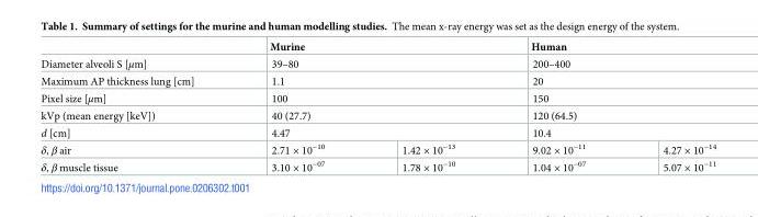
<table><thead><tr><td></td><td colspan="2">Murine</td><td colspan="2">Human</td></tr></thead><tbody><tr><td>Diameter alveoli S [μm]</td><td colspan="2">39–80</td><td colspan="2">200–400</td></tr><tr><td>Maximum AP thickness lung [cm]</td><td colspan="2">1.1</td><td colspan="2">20</td></tr><tr><td>Pixel size [μm]</td><td colspan="2">100</td><td colspan="2">150</td></tr><tr><td>kVp (mean energy [keV])</td><td colspan="2">40 (27.7)</td><td colspan="2">120 (64.5)</td></tr><tr><td>d [cm]</td><td colspan="2">4.47</td><td colspan="2">10.4</td></tr><tr><td>δ, β air</td><td>2.71 × 10<sup>−10</sup></td><td>1.42 × 10<sup>−13</sup></td><td>9.02 × 10<sup>−11</sup></td><td>4.27 × 10<sup>−14</sup></td></tr><tr><td>δ, β muscle tissue</td><td>3.10 × 10<sup>−07</sup></td><td>1.78 × 10<sup>−10</sup></td><td>1.04 × 10<sup>−07</sup></td><td>5.07 × 10<sup>−11</sup></td></tr></tbody></table>